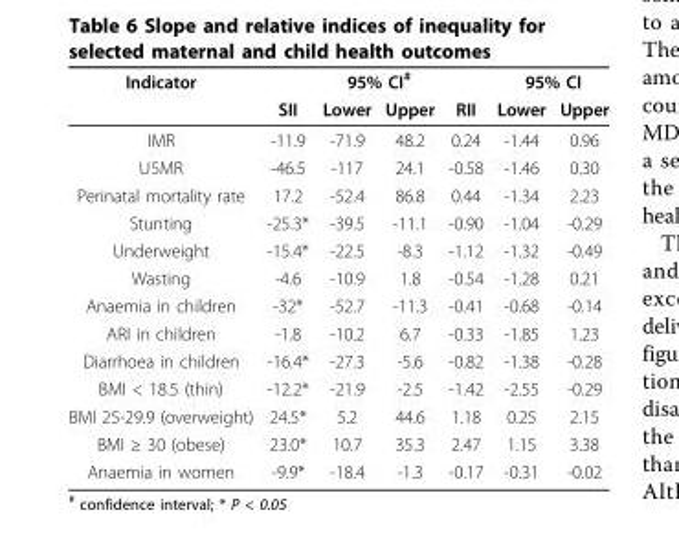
<table><thead><tr><td rowspan="2">Indicator</td><td rowspan="2">SII</td><td colspan="2">95% CI<sup>#</sup></td><td rowspan="2">RII</td><td colspan="2">95% CI</td></tr><tr><td>Lower</td><td>Upper</td><td>Lower</td><td>Upper</td></tr></thead><tbody><tr><td>IMR</td><td>-11.9</td><td>-71.9</td><td>48.2</td><td>0.24</td><td>-1.44</td><td>0.96</td></tr><tr><td>U5MR</td><td>-46.5</td><td>-117</td><td>24.1</td><td>-0.58</td><td>-1.46</td><td>0.30</td></tr><tr><td>Perinatal mortality rate</td><td>17.2</td><td>-52.4</td><td>86.8</td><td>0.44</td><td>-1.34</td><td>2.23</td></tr><tr><td>Stunting</td><td>-25.3*</td><td>-39.5</td><td>-11.1</td><td>-0.90</td><td>-1.04</td><td>-0.29</td></tr><tr><td>Underweight</td><td>-15.4*</td><td>-22.5</td><td>-8.3</td><td>-1.12</td><td>-1.32</td><td>-0.49</td></tr><tr><td>Wasting</td><td>-4.6</td><td>-10.9</td><td>1.8</td><td>-0.54</td><td>-1.28</td><td>0.21</td></tr><tr><td>Anaemia in children</td><td>-32*</td><td>-52.7</td><td>-11.3</td><td>-0.41</td><td>-0.68</td><td>-0.14</td></tr><tr><td>ARI in children</td><td>-1.8</td><td>-10.2</td><td>6.7</td><td>-0.33</td><td>-1.85</td><td>1.23</td></tr><tr><td>Diarrhoea in children</td><td>-16.4*</td><td>-27.3</td><td>-5.6</td><td>-0.82</td><td>-1.38</td><td>-0.28</td></tr><tr><td>BMI &lt; 18.5 (thin)</td><td>-12.2*</td><td>-21.9</td><td>-2.5</td><td>-1.42</td><td>-2.55</td><td>-0.29</td></tr><tr><td>BMI 25-29.9 (overweight)</td><td>24.5*</td><td>5.2</td><td>44.6</td><td>1.18</td><td>0.25</td><td>2.15</td></tr><tr><td>BMI ≥ 30 (obese)</td><td>23.0*</td><td>10.7</td><td>35.3</td><td>2.47</td><td>1.15</td><td>3.38</td></tr><tr><td>Anaemia in women</td><td>-9.9*</td><td>-18.4</td><td>-1.3</td><td>-0.17</td><td>-0.31</td><td>-0.02</td></tr></tbody></table>